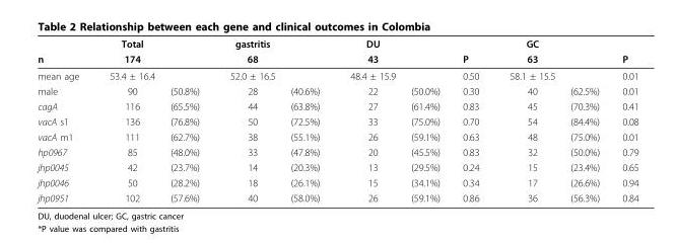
<table><thead><tr><td rowspan="2">n</td><td rowspan="2">Total 174</td><td rowspan="2"></td><td rowspan="2">gastritis 68</td><td rowspan="2"></td><td rowspan="2">DU 43</td><td rowspan="2"></td><td rowspan="2">P</td><td rowspan="2">GC 63</td><td rowspan="2"></td><td rowspan="2">P</td></tr><tr></tr></thead><tbody><tr><td>mean age</td><td>53.4 ± 16.4</td><td></td><td>52.0 ± 16.5</td><td></td><td>48.4 ± 15.9</td><td></td><td>0.50</td><td>58.1 ± 15.5</td><td></td><td>0.01</td></tr><tr><td>male</td><td>90</td><td>(50.8%)</td><td>28</td><td>(40.6%)</td><td>22</td><td>(50.0%)</td><td>0.30</td><td>40</td><td>(62.5%)</td><td>0.01</td></tr><tr><td>cagA</td><td>116</td><td>(65.5%)</td><td>44</td><td>(63.8%)</td><td>27</td><td>(61.4%)</td><td>0.83</td><td>45</td><td>(70.3%)</td><td>0.41</td></tr><tr><td>vacA s1</td><td>136</td><td>(76.8%)</td><td>50</td><td>(72.5%)</td><td>33</td><td>(75.0%)</td><td>0.70</td><td>54</td><td>(84.4%)</td><td>0.08</td></tr><tr><td>vacA m1</td><td>111</td><td>(62.7%)</td><td>38</td><td>(55.1%)</td><td>26</td><td>(59.1%)</td><td>0.63</td><td>48</td><td>(75.0%)</td><td>0.01</td></tr><tr><td>hp0967</td><td>85</td><td>(48.0%)</td><td>33</td><td>(47.8%)</td><td>20</td><td>(45.5%)</td><td>0.83</td><td>32</td><td>(50.0%)</td><td>0.79</td></tr><tr><td>jhp0045</td><td>42</td><td>(23.7%)</td><td>14</td><td>(20.3%)</td><td>13</td><td>(29.5%)</td><td>0.24</td><td>15</td><td>(23.4%)</td><td>0.65</td></tr><tr><td>jhp0046</td><td>50</td><td>(28.2%)</td><td>18</td><td>(26.1%)</td><td>15</td><td>(34.1%)</td><td>0.34</td><td>17</td><td>(26.6%)</td><td>0.94</td></tr><tr><td>jhp0951</td><td>102</td><td>(57.6%)</td><td>40</td><td>(58.0%)</td><td>26</td><td>(59.1%)</td><td>0.86</td><td>36</td><td>(56.3%)</td><td>0.84</td></tr></tbody></table>